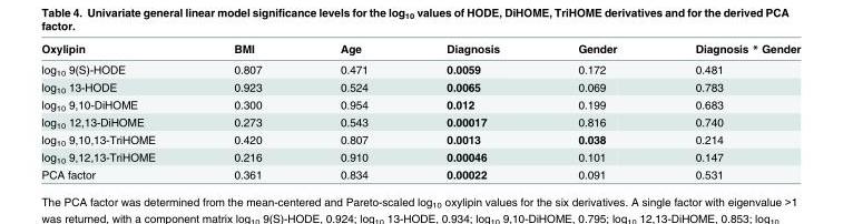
<table><thead><tr><td>Oxylipin</td><td>BMI</td><td>Age</td><td>Diagnosis</td><td>Gender</td><td>Diagnosis * Gender</td></tr></thead><tbody><tr><td>log<sub>10</sub> 9(S)-HODE</td><td>0.807</td><td>0.471</td><td>0.0059</td><td>0.172</td><td>0.481</td></tr><tr><td>log<sub>10</sub> 13-HODE</td><td>0.923</td><td>0.524</td><td>0.0065</td><td>0.069</td><td>0.783</td></tr><tr><td>log<sub>10</sub> 9,10-DiHOME</td><td>0.300</td><td>0.954</td><td>0.012</td><td>0.199</td><td>0.683</td></tr><tr><td>log<sub>10</sub> 12,13-DiHOME</td><td>0.273</td><td>0.543</td><td>0.00017</td><td>0.816</td><td>0.740</td></tr><tr><td>log<sub>10</sub> 9,10,13-TriHOME</td><td>0.420</td><td>0.807</td><td>0.0013</td><td>0.038</td><td>0.214</td></tr><tr><td>log<sub>10</sub> 9,12,13-TriHOME</td><td>0.216</td><td>0.910</td><td>0.00046</td><td>0.101</td><td>0.147</td></tr><tr><td>PCA factor</td><td>0.361</td><td>0.834</td><td>0.00022</td><td>0.091</td><td>0.531</td></tr></tbody></table>